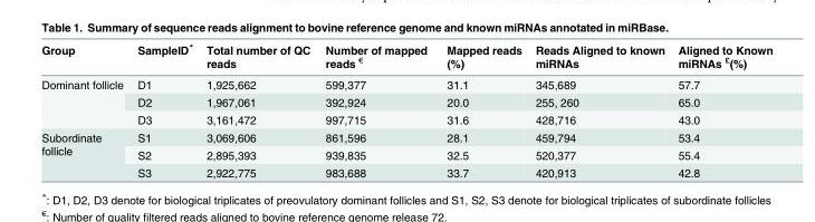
<table><thead><tr><td>Group</td><td>SampleID*</td><td>Total number of QC reads</td><td>Number of mapped reads <sup>€</sup></td><td>Mapped reads (%)</td><td>Reads Aligned to known miRNAs</td><td>Aligned to Known miRNAs <sup>£</sup>(%)</td></tr></thead><tbody><tr><td rowspan="3">Dominant follicle</td><td>D1</td><td>1,925,662</td><td>599,377</td><td>31.1</td><td>345,689</td><td>57.7</td></tr><tr><td>D2</td><td>1,967,061</td><td>392,924</td><td>20.0</td><td>255, 260</td><td>65.0</td></tr><tr><td>D3</td><td>3,161,472</td><td>997,715</td><td>31.6</td><td>428,716</td><td>43.0</td></tr><tr><td rowspan="3">Subordinate follicle</td><td>S1</td><td>3,069,606</td><td>861,596</td><td>28.1</td><td>459,794</td><td>53.4</td></tr><tr><td>S2</td><td>2,895,393</td><td>939,835</td><td>32.5</td><td>520,377</td><td>55.4</td></tr><tr><td>S3</td><td>2,922,775</td><td>983,688</td><td>33.7</td><td>420,913</td><td>42.8</td></tr></tbody></table>